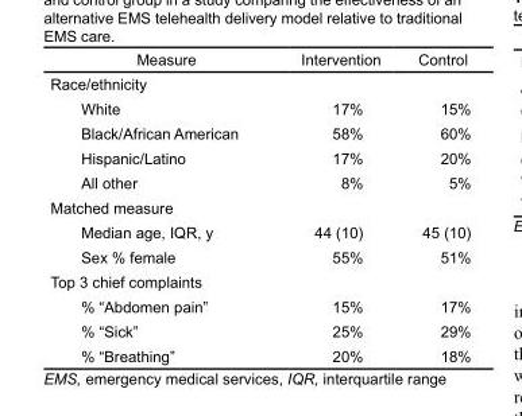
<table><thead><tr><td>Measure</td><td>Intervention</td><td>Control</td></tr></thead><tbody><tr><td colspan="3">Race/ethnicity</td></tr><tr><td>White</td><td>17%</td><td>15%</td></tr><tr><td>Black/African American</td><td>58%</td><td>60%</td></tr><tr><td>Hispanic/Latino</td><td>17%</td><td>20%</td></tr><tr><td>All other</td><td>8%</td><td>5%</td></tr><tr><td colspan="3">Matched measure</td></tr><tr><td>Median age, IQR, y</td><td>44 (10)</td><td>45 (10)</td></tr><tr><td>Sex % female</td><td>55%</td><td>51%</td></tr><tr><td colspan="3">Top 3 chief complaints</td></tr><tr><td>% “Abdomen pain”</td><td>15%</td><td>17%</td></tr><tr><td>% “Sick”</td><td>25%</td><td>29%</td></tr><tr><td>% “Breathing”</td><td>20%</td><td>18%</td></tr></tbody></table>